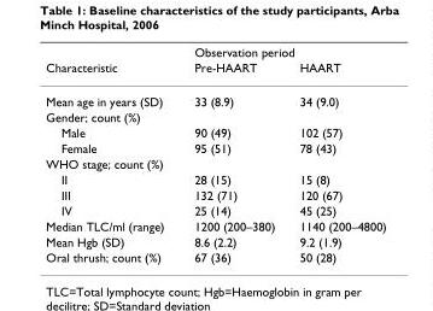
<table><thead><tr><td rowspan="2">Characteristic</td><td colspan="2">Observation period</td></tr><tr><td>Pre-HAART</td><td>HAART</td></tr></thead><tbody><tr><td>Mean age in years (SD)</td><td>33 (8.9)</td><td>34 (9.0)</td></tr><tr><td colspan="3">Gender; count (%)</td></tr><tr><td>Male</td><td>90 (49)</td><td>102 (57)</td></tr><tr><td>Female</td><td>95 (51)</td><td>78 (43)</td></tr><tr><td colspan="3">WHO stage; count (%)</td></tr><tr><td>II</td><td>28 (15)</td><td>15 (8)</td></tr><tr><td>III</td><td>132 (71)</td><td>120 (67)</td></tr><tr><td>IV</td><td>25 (14)</td><td>45 (25)</td></tr><tr><td>Median TLC/ml (range)</td><td>1200 (200–380)</td><td>1140 (200–4800)</td></tr><tr><td>Mean Hgb (SD)</td><td>8.6 (2.2)</td><td>9.2 (1.9)</td></tr><tr><td>Oral thrush; count (%)</td><td>67 (36)</td><td>50 (28)</td></tr></tbody></table>